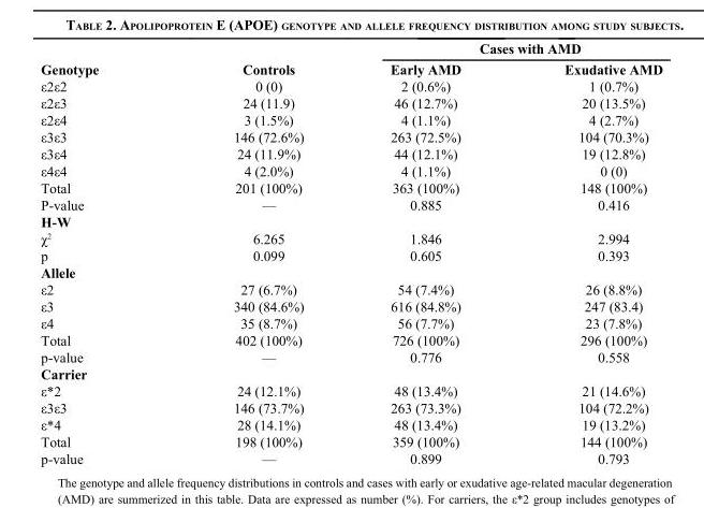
<table><thead><tr><td rowspan="2">Genotype</td><td rowspan="2">Controls</td><td colspan="2">Cases with AMD</td></tr><tr><td>Early AMD</td><td>Exudative AMD</td></tr></thead><tbody><tr><td>ε2ε2</td><td>0 (0)</td><td>2 (0.6%)</td><td>1 (0.7%)</td></tr><tr><td>ε2ε3</td><td>24 (11.9)</td><td>46 (12.7%)</td><td>20 (13.5%)</td></tr><tr><td>ε2ε4</td><td>3 (1.5%)</td><td>4 (1.1%)</td><td>4 (2.7%)</td></tr><tr><td>ε3ε3</td><td>146 (72.6%)</td><td>263 (72.5%)</td><td>104 (70.3%)</td></tr><tr><td>ε3ε4</td><td>24 (11.9%)</td><td>44 (12.1%)</td><td>19 (12.8%)</td></tr><tr><td>ε4ε4</td><td>4 (2.0%)</td><td>4 (1.1%)</td><td>0 (0)</td></tr><tr><td>Total</td><td>201 (100%)</td><td>363 (100%)</td><td>148 (100%)</td></tr><tr><td>P-value</td><td>—</td><td>0.885</td><td>0.416</td></tr><tr><td colspan="4">H-W</td></tr><tr><td>χ<sup>2</sup></td><td>6.265</td><td>1.846</td><td>2.994</td></tr><tr><td>p</td><td>0.099</td><td>0.605</td><td>0.393</td></tr><tr><td colspan="4">Allele</td></tr><tr><td>ε2</td><td>27 (6.7%)</td><td>54 (7.4%)</td><td>26 (8.8%)</td></tr><tr><td>ε3</td><td>340 (84.6%)</td><td>616 (84.8%)</td><td>247 (83.4)</td></tr><tr><td>ε4</td><td>35 (8.7%)</td><td>56 (7.7%)</td><td>23 (7.8%)</td></tr><tr><td>Total</td><td>402 (100%)</td><td>726 (100%)</td><td>296 (100%)</td></tr><tr><td>p-value</td><td>—</td><td>0.776</td><td>0.558</td></tr><tr><td colspan="4">Carrier</td></tr><tr><td>ε*2</td><td>24 (12.1%)</td><td>48 (13.4%)</td><td>21 (14.6%)</td></tr><tr><td>ε3ε3</td><td>146 (73.7%)</td><td>263 (73.3%)</td><td>104 (72.2%)</td></tr><tr><td>ε*4</td><td>28 (14.1%)</td><td>48 (13.4%)</td><td>19 (13.2%)</td></tr><tr><td>Total</td><td>198 (100%)</td><td>359 (100%)</td><td>144 (100%)</td></tr><tr><td>p-value</td><td>—</td><td>0.899</td><td>0.793</td></tr></tbody></table>